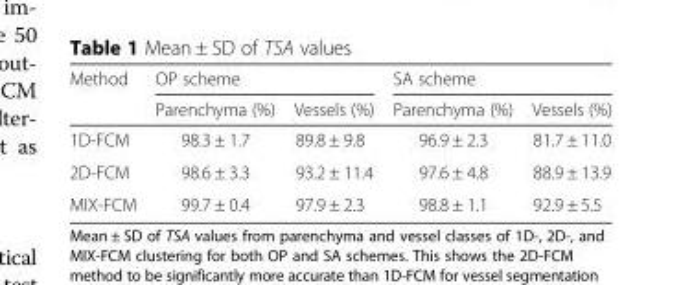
<table><thead><tr><td rowspan="2">Method</td><td colspan="2">OP scheme</td><td colspan="2">SA scheme</td></tr><tr><td>Parenchyma (%)</td><td>Vessels (%)</td><td>Parenchyma (%)</td><td>Vessels (%)</td></tr></thead><tbody><tr><td>1D-FCM</td><td>98.3 ± 1.7</td><td>89.8 ± 9.8</td><td>96.9 ± 2.3</td><td>81.7 ± 11.0</td></tr><tr><td>2D-FCM</td><td>98.6 ± 3.3</td><td>93.2 ± 11.4</td><td>97.6 ± 4.8</td><td>88.9 ± 13.9</td></tr><tr><td>MIX-FCM</td><td>99.7 ± 0.4</td><td>97.9 ± 2.3</td><td>98.8 ± 1.1</td><td>92.9 ± 5.5</td></tr></tbody></table>